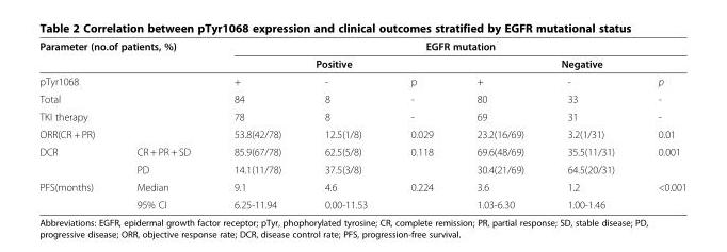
<table><thead><tr><td colspan="2">Parameter (no.of patients, %)</td><td colspan="6">EGFR mutation</td></tr><tr><td></td><td></td><td colspan="3">Positive</td><td colspan="3">Negative</td></tr><tr><td colspan="2">pTyr1068</td><td>+</td><td>-</td><td>p</td><td>+</td><td>-</td><td>p</td></tr></thead><tbody><tr><td colspan="2">Total</td><td>84</td><td>8</td><td>-</td><td>80</td><td>33</td><td>-</td></tr><tr><td colspan="2">TKI therapy</td><td>78</td><td>8</td><td>-</td><td>69</td><td>31</td><td>-</td></tr><tr><td colspan="2">ORR(CR + PR)</td><td>53.8(42/78)</td><td>12.5(1/8)</td><td>0.029</td><td>23.2(16/69)</td><td>3.2(1/31)</td><td>0.01</td></tr><tr><td rowspan="2">DCR</td><td>CR + PR + SD</td><td>85.9(67/78)</td><td>62.5(5/8)</td><td rowspan="2">0.118</td><td>69.6(48/69)</td><td>35.5(11/31)</td><td rowspan="2">0.001</td></tr><tr><td>PD</td><td>14.1(11/78)</td><td>37.5(3/8)</td><td>30.4(21/69)</td><td>64.5(20/31)</td></tr><tr><td rowspan="2">PFS(months)</td><td>Median</td><td>9.1</td><td>4.6</td><td>0.224</td><td>3.6</td><td>1.2</td><td>&lt;0.001</td></tr><tr><td>95% CI</td><td>6.25-11.94</td><td>0.00-11.53</td><td></td><td>1.03-6.30</td><td>1.00-1.46</td><td></td></tr></tbody></table>